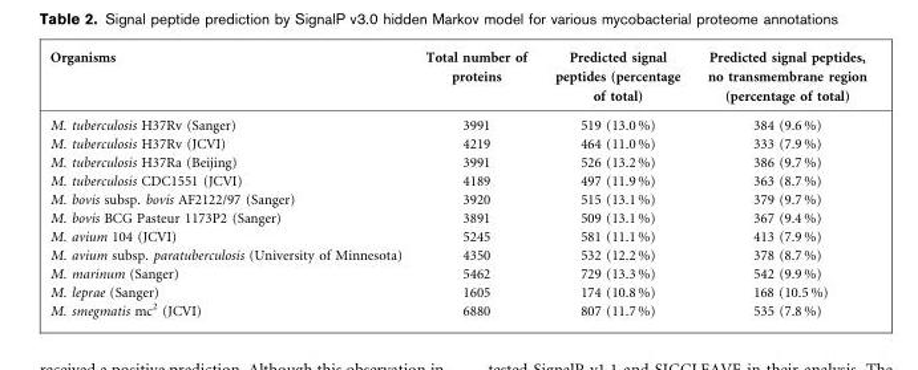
<table><thead><tr><td>Organisms</td><td>Total number of proteins</td><td>Predicted signal peptides (percentage of total)</td><td>Predicted signal peptides, no transmembrane region (percentage of total)</td></tr></thead><tbody><tr><td>M. tuberculosis H37Rv (Sanger)</td><td>3991</td><td>519 (13.0 %)</td><td>384 (9.6 %)</td></tr><tr><td>M. tuberculosis H37Rv (JCVI)</td><td>4219</td><td>464 (11.0 %)</td><td>333 (7.9 %)</td></tr><tr><td>M. tuberculosis H37Ra (Beijing)</td><td>3991</td><td>526 (13.2 %)</td><td>386 (9.7 %)</td></tr><tr><td>M. tuberculosis CDC1551 (JCVI)</td><td>4189</td><td>497 (11.9 %)</td><td>363 (8.7 %)</td></tr><tr><td>M. bovis subsp. bovis AF2122/97 (Sanger)</td><td>3920</td><td>515 (13.1 %)</td><td>379 (9.7 %)</td></tr><tr><td>M. bovis BCG Pasteur 1173P2 (Sanger)</td><td>3891</td><td>509 (13.1 %)</td><td>367 (9.4 %)</td></tr><tr><td>M. avium 104 (JCVI)</td><td>5245</td><td>581 (11.1 %)</td><td>413 (7.9 %)</td></tr><tr><td>M. avium subsp. paratuberculosis (University of Minnesota)</td><td>4350</td><td>532 (12.2 %)</td><td>378 (8.7 %)</td></tr><tr><td>M. marinum (Sanger)</td><td>5462</td><td>729 (13.3 %)</td><td>542 (9.9 %)</td></tr><tr><td>M. leprae (Sanger)</td><td>1605</td><td>174 (10.8 %)</td><td>168 (10.5 %)</td></tr><tr><td>M. smegmatis mc<sup>2</sup> (JCVI)</td><td>6880</td><td>807 (11.7 %)</td><td>535 (7.8 %)</td></tr></tbody></table>